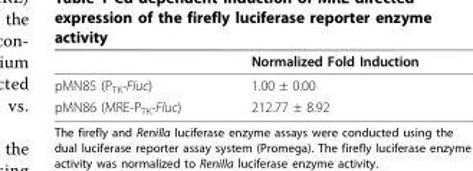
<table><thead><tr><td></td><td>Normalized Fold Induction</td></tr></thead><tbody><tr><td>pMN85 (P<sub>TK</sub>-Fluc)</td><td>1.00 ± 0.00</td></tr><tr><td>pMN86 (MRE-P<sub>TK</sub>-Fluc)</td><td>212.77 ± 8.92</td></tr></tbody></table>